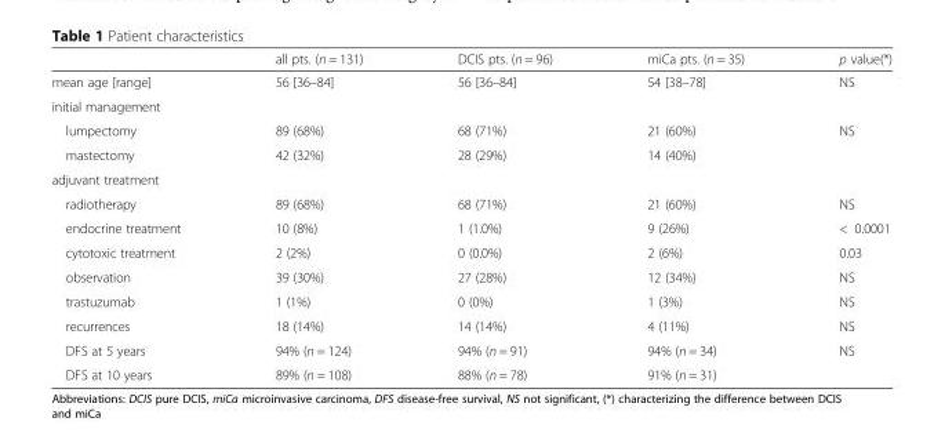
<table><thead><tr><td></td><td>all pts. (n = 131)</td><td>DCIS pts. (n = 96)</td><td>miCa pts. (n = 35)</td><td>p value(*)</td></tr></thead><tbody><tr><td>mean age [range]</td><td>56 [36–84]</td><td>56 [36–84]</td><td>54 [38–78]</td><td>NS</td></tr><tr><td colspan="5">initial management</td></tr><tr><td>lumpectomy</td><td>89 (68%)</td><td>68 (71%)</td><td>21 (60%)</td><td>NS</td></tr><tr><td>mastectomy</td><td>42 (32%)</td><td>28 (29%)</td><td>14 (40%)</td><td></td></tr><tr><td colspan="5">adjuvant treatment</td></tr><tr><td>radiotherapy</td><td>89 (68%)</td><td>68 (71%)</td><td>21 (60%)</td><td>NS</td></tr><tr><td>endocrine treatment</td><td>10 (8%)</td><td>1 (1.0%)</td><td>9 (26%)</td><td>&lt; 0.0001</td></tr><tr><td>cytotoxic treatment</td><td>2 (2%)</td><td>0 (0.0%)</td><td>2 (6%)</td><td>0.03</td></tr><tr><td>observation</td><td>39 (30%)</td><td>27 (28%)</td><td>12 (34%)</td><td>NS</td></tr><tr><td>trastuzumab</td><td>1 (1%)</td><td>0 (0%)</td><td>1 (3%)</td><td>NS</td></tr><tr><td>recurrences</td><td>18 (14%)</td><td>14 (14%)</td><td>4 (11%)</td><td>NS</td></tr><tr><td>DFS at 5 years</td><td>94% (n = 124)</td><td>94% (n = 91)</td><td>94% (n = 34)</td><td rowspan="2">NS</td></tr><tr><td>DFS at 10 years</td><td>89% (n = 108)</td><td>88% (n = 78)</td><td>91% (n = 31)</td></tr></tbody></table>